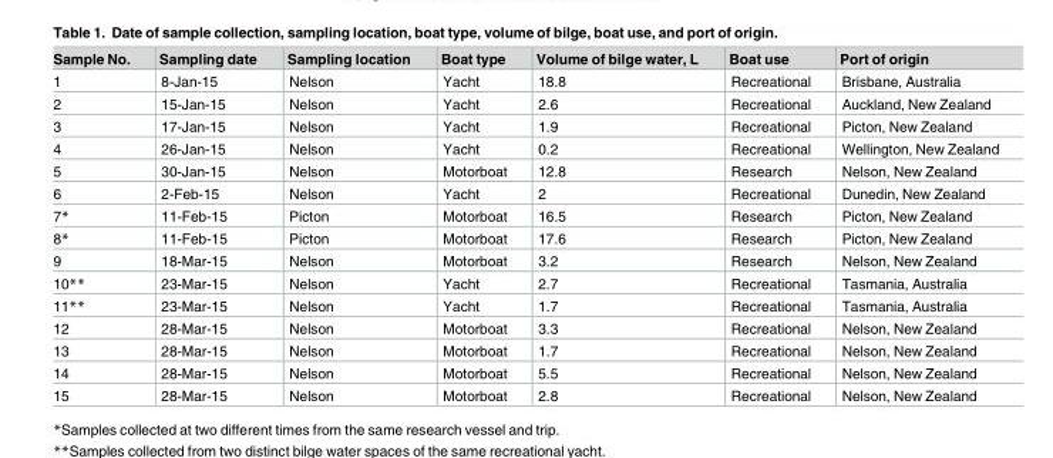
<table><thead><tr><td>Sample No.</td><td>Sampling date</td><td>Sampling location</td><td>Boat type</td><td>Volume of bilge water, L</td><td>Boat use</td><td>Port of origin</td></tr></thead><tbody><tr><td>1</td><td>8-Jan-15</td><td>Nelson</td><td>Yacht</td><td>18.8</td><td>Recreational</td><td>Brisbane, Australia</td></tr><tr><td>2</td><td>15-Jan-15</td><td>Nelson</td><td>Yacht</td><td>2.6</td><td>Recreational</td><td>Auckland, New Zealand</td></tr><tr><td>3</td><td>17-Jan-15</td><td>Nelson</td><td>Yacht</td><td>1.9</td><td>Recreational</td><td>Picton, New Zealand</td></tr><tr><td>4</td><td>26-Jan-15</td><td>Nelson</td><td>Yacht</td><td>0.2</td><td>Recreational</td><td>Wellington, New Zealand</td></tr><tr><td>5</td><td>30-Jan-15</td><td>Nelson</td><td>Motorboat</td><td>12.8</td><td>Research</td><td>Nelson, New Zealand</td></tr><tr><td>6</td><td>2-Feb-15</td><td>Nelson</td><td>Yacht</td><td>2</td><td>Recreational</td><td>Dunedin, New Zealand</td></tr><tr><td>7*</td><td>11-Feb-15</td><td>Picton</td><td>Motorboat</td><td>16.5</td><td>Research</td><td>Picton, New Zealand</td></tr><tr><td>8*</td><td>11-Feb-15</td><td>Picton</td><td>Motorboat</td><td>17.6</td><td>Research</td><td>Picton, New Zealand</td></tr><tr><td>9</td><td>18-Mar-15</td><td>Nelson</td><td>Motorboat</td><td>3.2</td><td>Research</td><td>Nelson, New Zealand</td></tr><tr><td>10**</td><td>23-Mar-15</td><td>Nelson</td><td>Yacht</td><td>2.7</td><td>Recreational</td><td>Tasmania, Australia</td></tr><tr><td>11**</td><td>23-Mar-15</td><td>Nelson</td><td>Yacht</td><td>1.7</td><td>Recreational</td><td>Tasmania, Australia</td></tr><tr><td>12</td><td>28-Mar-15</td><td>Nelson</td><td>Motorboat</td><td>3.3</td><td>Recreational</td><td>Nelson, New Zealand</td></tr><tr><td>13</td><td>28-Mar-15</td><td>Nelson</td><td>Motorboat</td><td>1.7</td><td>Recreational</td><td>Nelson, New Zealand</td></tr><tr><td>14</td><td>28-Mar-15</td><td>Nelson</td><td>Motorboat</td><td>5.5</td><td>Recreational</td><td>Nelson, New Zealand</td></tr><tr><td>15</td><td>28-Mar-15</td><td>Nelson</td><td>Motorboat</td><td>2.8</td><td>Recreational</td><td>Nelson, New Zealand</td></tr></tbody></table>